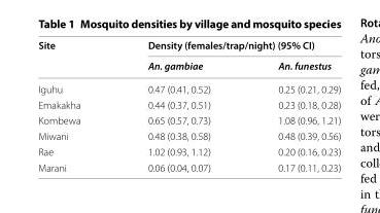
<table><thead><tr><td rowspan="2">Site</td><td colspan="2">Density (females/trap/night) (95% CI)</td></tr><tr><td>An. gambiae</td><td>An. funestus</td></tr></thead><tbody><tr><td>Iguhu</td><td>0.47 (0.41, 0.52)</td><td>0.25 (0.21, 0.29)</td></tr><tr><td>Emakakha</td><td>0.44 (0.37, 0.51)</td><td>0.23 (0.18, 0.28)</td></tr><tr><td>Kombewa</td><td>0.65 (0.57, 0.73)</td><td>1.08 (0.96, 1.21)</td></tr><tr><td>Miwani</td><td>0.48 (0.38, 0.58)</td><td>0.48 (0.39, 0.56)</td></tr><tr><td>Rae</td><td>1.02 (0.93, 1.12)</td><td>0.20 (0.16, 0.23)</td></tr><tr><td>Marani</td><td>0.06 (0.04, 0.07)</td><td>0.17 (0.11, 0.23)</td></tr></tbody></table>